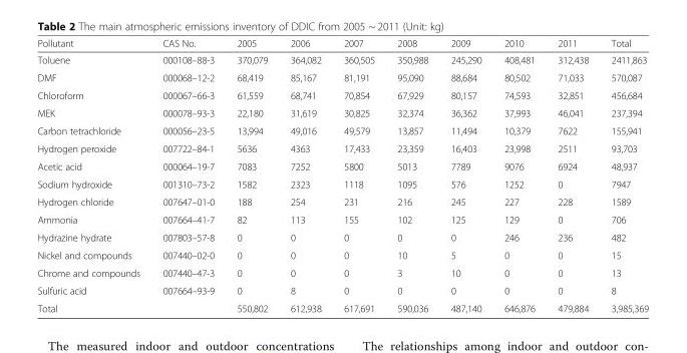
<table><thead><tr><td>Pollutant</td><td>CAS No.</td><td>2005</td><td>2006</td><td>2007</td><td>2008</td><td>2009</td><td>2010</td><td>2011</td><td>Total</td></tr></thead><tbody><tr><td>Toluene</td><td>000108–88-3</td><td>370,079</td><td>364,082</td><td>360,505</td><td>350,988</td><td>245,290</td><td>408,481</td><td>312,438</td><td>2411,863</td></tr><tr><td>DMF</td><td>000068–12-2</td><td>68,419</td><td>85,167</td><td>81,191</td><td>95,090</td><td>88,684</td><td>80,502</td><td>71,033</td><td>570,087</td></tr><tr><td>Chloroform</td><td>000067–66-3</td><td>61,559</td><td>68,741</td><td>70,854</td><td>67,929</td><td>80,157</td><td>74,593</td><td>32,851</td><td>456,684</td></tr><tr><td>MEK</td><td>000078–93-3</td><td>22,180</td><td>31,619</td><td>30,825</td><td>32,374</td><td>36,362</td><td>37,993</td><td>46,041</td><td>237,394</td></tr><tr><td>Carbon tetrachloride</td><td>000056–23-5</td><td>13,994</td><td>49,016</td><td>49,579</td><td>13,857</td><td>11,494</td><td>10,379</td><td>7622</td><td>155,941</td></tr><tr><td>Hydrogen peroxide</td><td>007722–84-1</td><td>5636</td><td>4363</td><td>17,433</td><td>23,359</td><td>16,403</td><td>23,998</td><td>2511</td><td>93,703</td></tr><tr><td>Acetic acid</td><td>000064–19-7</td><td>7083</td><td>7252</td><td>5800</td><td>5013</td><td>7789</td><td>9076</td><td>6924</td><td>48,937</td></tr><tr><td>Sodium hydroxide</td><td>001310–73-2</td><td>1582</td><td>2323</td><td>1118</td><td>1095</td><td>576</td><td>1252</td><td>0</td><td>7947</td></tr><tr><td>Hydrogen chloride</td><td>007647–01-0</td><td>188</td><td>254</td><td>231</td><td>216</td><td>245</td><td>227</td><td>228</td><td>1589</td></tr><tr><td>Ammonia</td><td>007664–41-7</td><td>82</td><td>113</td><td>155</td><td>102</td><td>125</td><td>129</td><td>0</td><td>706</td></tr><tr><td>Hydrazine hydrate</td><td>007803–57-8</td><td>0</td><td>0</td><td>0</td><td>0</td><td>0</td><td>246</td><td>236</td><td>482</td></tr><tr><td>Nickel and compounds</td><td>007440–02-0</td><td>0</td><td>0</td><td>0</td><td>10</td><td>5</td><td>0</td><td>0</td><td>15</td></tr><tr><td>Chrome and compounds</td><td>007440–47-3</td><td>0</td><td>0</td><td>0</td><td>3</td><td>10</td><td>0</td><td>0</td><td>13</td></tr><tr><td>Sulfuric acid</td><td>007664–93-9</td><td>0</td><td>8</td><td>0</td><td>0</td><td>0</td><td>0</td><td>0</td><td>8</td></tr><tr><td>Total</td><td></td><td>550,802</td><td>612,938</td><td>617,691</td><td>590,036</td><td>487,140</td><td>646,876</td><td>479,884</td><td>3,985,369</td></tr></tbody></table>